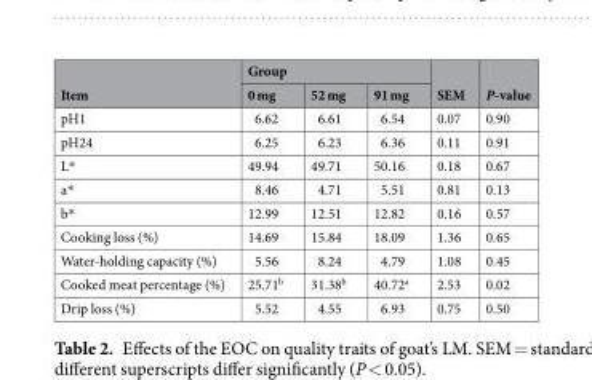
<table><thead><tr><td rowspan="2">Item</td><td colspan="3">Group</td><td rowspan="2">SEM</td><td rowspan="2">P-value</td></tr><tr><td>0 mg</td><td>52 mg</td><td>91 mg</td></tr></thead><tbody><tr><td>pH1</td><td>6.62</td><td>6.61</td><td>6.54</td><td>0.07</td><td>0.90</td></tr><tr><td>pH24</td><td>6.25</td><td>6.23</td><td>6.36</td><td>0.11</td><td>0.91</td></tr><tr><td>L*</td><td>49.94</td><td>49.71</td><td>50.16</td><td>0.18</td><td>0.67</td></tr><tr><td>a*</td><td>8.46</td><td>4.71</td><td>5.51</td><td>0.81</td><td>0.13</td></tr><tr><td>b*</td><td>12.99</td><td>12.51</td><td>12.82</td><td>0.16</td><td>0.57</td></tr><tr><td>Cooking loss (%)</td><td>14.69</td><td>15.84</td><td>18.09</td><td>1.36</td><td>0.65</td></tr><tr><td>Water-holding capacity (%)</td><td>5.56</td><td>8.24</td><td>4.79</td><td>1.08</td><td>0.45</td></tr><tr><td>Cooked meat percentage (%)</td><td>25.71<sup>b</sup></td><td>31.38<sup>b</sup></td><td>40.72<sup>a</sup></td><td>2.53</td><td>0.02</td></tr><tr><td>Drip loss (%)</td><td>5.52</td><td>4.55</td><td>6.93</td><td>0.75</td><td>0.50</td></tr></tbody></table>